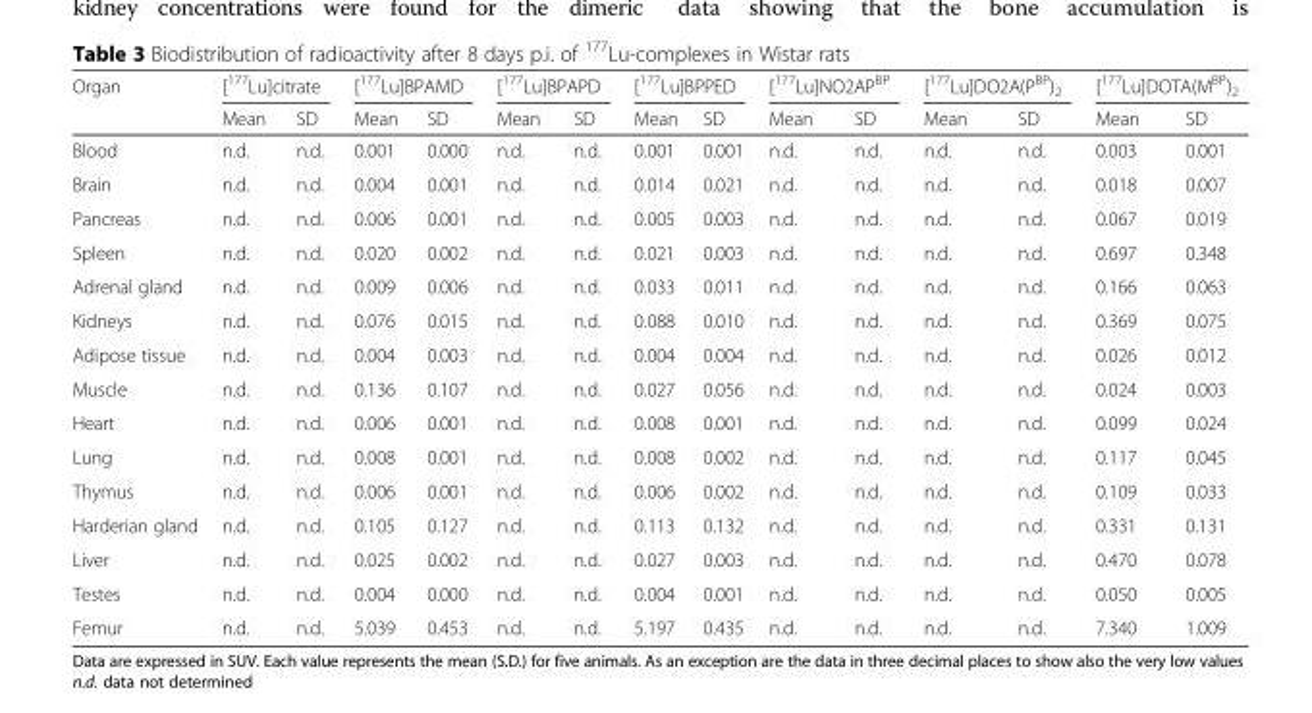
<table><thead><tr><td rowspan="2">Organ</td><td colspan="2">[<sup>177</sup>Lu]citrate</td><td colspan="2">[<sup>177</sup>Lu]BPAMD</td><td colspan="2">[<sup>177</sup>Lu]BPAPD</td><td colspan="2">[<sup>177</sup>Lu]BPPED</td><td colspan="2">[<sup>177</sup>Lu]NO2AP<sup>BP</sup></td><td colspan="2">[<sup>177</sup>Lu]DO2A(P<sup>BP</sup>)<sub>2</sub></td><td colspan="2">[<sup>177</sup>Lu]DOTA(M<sup>BP</sup>)<sub>2</sub></td></tr><tr><td>Mean</td><td>SD</td><td>Mean</td><td>SD</td><td>Mean</td><td>SD</td><td>Mean</td><td>SD</td><td>Mean</td><td>SD</td><td>Mean</td><td>SD</td><td>Mean</td><td>SD</td></tr></thead><tbody><tr><td>Blood</td><td>n.d.</td><td>n.d.</td><td>0.001</td><td>0.000</td><td>n.d.</td><td>n.d.</td><td>0.001</td><td>0.001</td><td>n.d.</td><td>n.d.</td><td>n.d.</td><td>n.d.</td><td>0.003</td><td>0.001</td></tr><tr><td>Brain</td><td>n.d.</td><td>n.d.</td><td>0.004</td><td>0.001</td><td>n.d.</td><td>n.d.</td><td>0.014</td><td>0.021</td><td>n.d.</td><td>n.d.</td><td>n.d.</td><td>n.d.</td><td>0.018</td><td>0.007</td></tr><tr><td>Pancreas</td><td>n.d.</td><td>n.d.</td><td>0.006</td><td>0.001</td><td>n.d.</td><td>n.d.</td><td>0.005</td><td>0.003</td><td>n.d.</td><td>n.d.</td><td>n.d.</td><td>n.d.</td><td>0.067</td><td>0.019</td></tr><tr><td>Spleen</td><td>n.d.</td><td>n.d.</td><td>0.020</td><td>0.002</td><td>n.d.</td><td>n.d.</td><td>0.021</td><td>0.003</td><td>n.d.</td><td>n.d.</td><td>n.d.</td><td>n.d.</td><td>0.697</td><td>0.348</td></tr><tr><td>Adrenal gland</td><td>n.d.</td><td>n.d.</td><td>0.009</td><td>0.006</td><td>n.d.</td><td>n.d.</td><td>0.033</td><td>0.011</td><td>n.d.</td><td>n.d.</td><td>n.d.</td><td>n.d.</td><td>0.166</td><td>0.063</td></tr><tr><td>Kidneys</td><td>n.d.</td><td>n.d.</td><td>0.076</td><td>0.015</td><td>n.d.</td><td>n.d.</td><td>0.088</td><td>0.010</td><td>n.d.</td><td>n.d.</td><td>n.d.</td><td>n.d.</td><td>0.369</td><td>0.075</td></tr><tr><td>Adipose tissue</td><td>n.d.</td><td>n.d.</td><td>0.004</td><td>0.003</td><td>n.d.</td><td>n.d.</td><td>0.004</td><td>0.004</td><td>n.d.</td><td>n.d.</td><td>n.d.</td><td>n.d.</td><td>0.026</td><td>0.012</td></tr><tr><td>Muscle</td><td>n.d.</td><td>n.d.</td><td>0.136</td><td>0.107</td><td>n.d.</td><td>n.d.</td><td>0.027</td><td>0.056</td><td>n.d.</td><td>n.d.</td><td>n.d.</td><td>n.d.</td><td>0.024</td><td>0.003</td></tr><tr><td>Heart</td><td>n.d.</td><td>n.d.</td><td>0.006</td><td>0.001</td><td>n.d.</td><td>n.d.</td><td>0.008</td><td>0.001</td><td>n.d.</td><td>n.d.</td><td>n.d.</td><td>n.d.</td><td>0.099</td><td>0.024</td></tr><tr><td>Lung</td><td>n.d.</td><td>n.d.</td><td>0.008</td><td>0.001</td><td>n.d.</td><td>n.d.</td><td>0.008</td><td>0.002</td><td>n.d.</td><td>n.d.</td><td>n.d.</td><td>n.d.</td><td>0.117</td><td>0.045</td></tr><tr><td>Thymus</td><td>n.d.</td><td>n.d.</td><td>0.006</td><td>0.001</td><td>n.d.</td><td>n.d.</td><td>0.006</td><td>0.002</td><td>n.d.</td><td>n.d.</td><td>n.d.</td><td>n.d.</td><td>0.109</td><td>0.033</td></tr><tr><td>Harderian gland</td><td>n.d.</td><td>n.d.</td><td>0.105</td><td>0.127</td><td>n.d.</td><td>n.d.</td><td>0.113</td><td>0.132</td><td>n.d.</td><td>n.d.</td><td>n.d.</td><td>n.d.</td><td>0.331</td><td>0.131</td></tr><tr><td>Liver</td><td>n.d.</td><td>n.d.</td><td>0.025</td><td>0.002</td><td>n.d.</td><td>n.d.</td><td>0.027</td><td>0.003</td><td>n.d.</td><td>n.d.</td><td>n.d.</td><td>n.d.</td><td>0.470</td><td>0.078</td></tr><tr><td>Testes</td><td>n.d.</td><td>n.d.</td><td>0.004</td><td>0.000</td><td>n.d.</td><td>n.d.</td><td>0.004</td><td>0.001</td><td>n.d.</td><td>n.d.</td><td>n.d.</td><td>n.d.</td><td>0.050</td><td>0.005</td></tr><tr><td>Femur</td><td>n.d.</td><td>n.d.</td><td>5.039</td><td>0.453</td><td>n.d.</td><td>n.d.</td><td>5.197</td><td>0.435</td><td>n.d.</td><td>n.d.</td><td>n.d.</td><td>n.d.</td><td>7.340</td><td>1.009</td></tr></tbody></table>